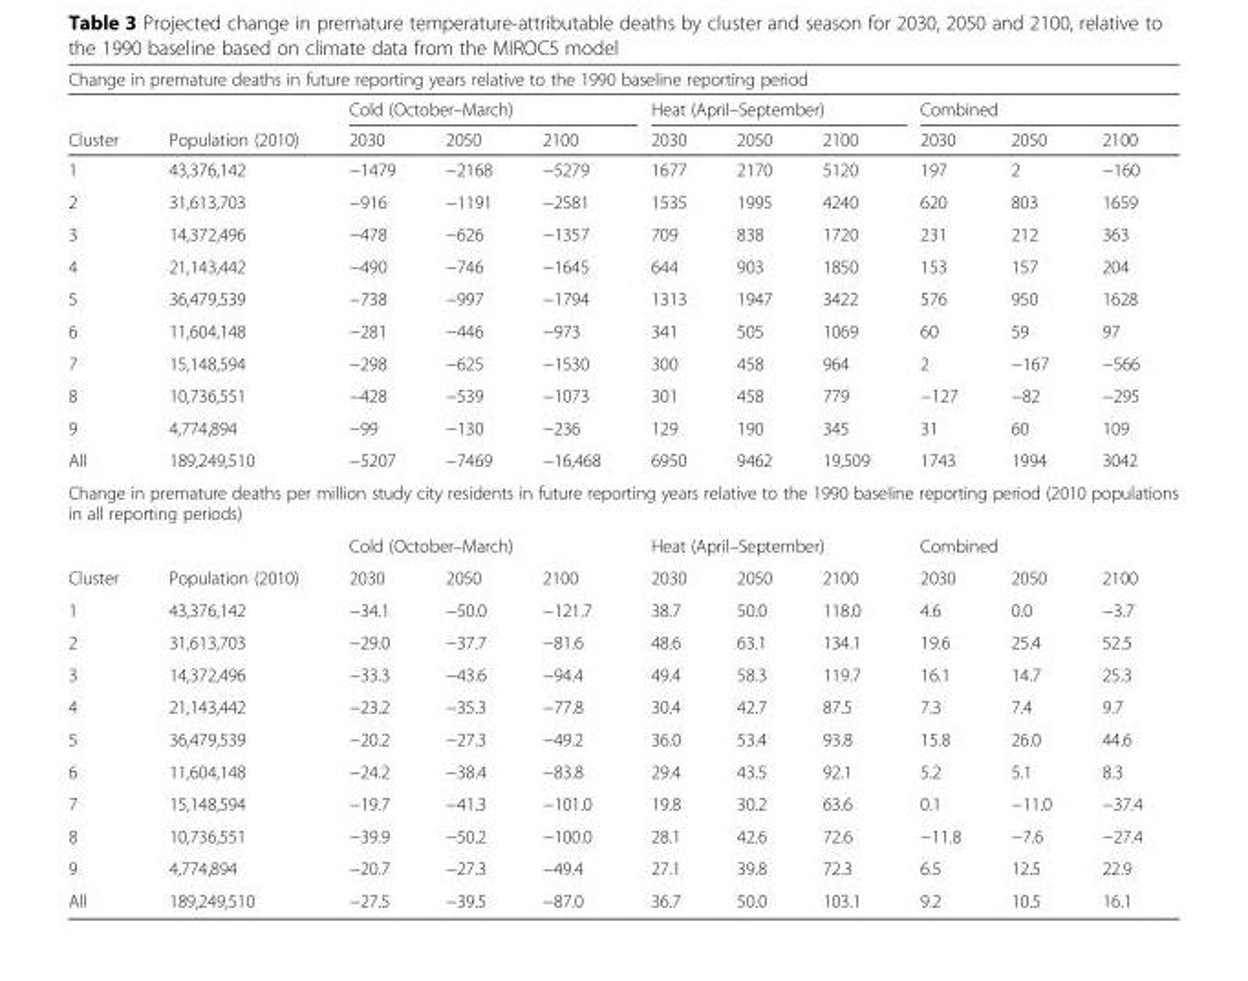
<table><thead><tr><td colspan="11">Change in premature deaths in future reporting years relative to the 1990 baseline reporting period</td></tr><tr><td rowspan="2">Cluster</td><td rowspan="2">Population (2010)</td><td colspan="3">Cold (October–March)</td><td colspan="3">Heat (April–September)</td><td colspan="3">Combined</td></tr><tr><td>2030</td><td>2050</td><td>2100</td><td>2030</td><td>2050</td><td>2100</td><td>2030</td><td>2050</td><td>2100</td></tr></thead><tbody><tr><td>1</td><td>43,376,142</td><td>−1479</td><td>−2168</td><td>−5279</td><td>1677</td><td>2170</td><td>5120</td><td>197</td><td>2</td><td>−160</td></tr><tr><td>2</td><td>31,613,703</td><td>−916</td><td>−1191</td><td>−2581</td><td>1535</td><td>1995</td><td>4240</td><td>620</td><td>803</td><td>1659</td></tr><tr><td>3</td><td>14,372,496</td><td>−478</td><td>−626</td><td>−1357</td><td>709</td><td>838</td><td>1720</td><td>231</td><td>212</td><td>363</td></tr><tr><td>4</td><td>21,143,442</td><td>−490</td><td>−746</td><td>−1645</td><td>644</td><td>903</td><td>1850</td><td>153</td><td>157</td><td>204</td></tr><tr><td>5</td><td>36,479,539</td><td>−738</td><td>−997</td><td>−1794</td><td>1313</td><td>1947</td><td>3422</td><td>576</td><td>950</td><td>1628</td></tr><tr><td>6</td><td>11,604,148</td><td>−281</td><td>−446</td><td>−973</td><td>341</td><td>505</td><td>1069</td><td>60</td><td>59</td><td>97</td></tr><tr><td>7</td><td>15,148,594</td><td>−298</td><td>−625</td><td>−1530</td><td>300</td><td>458</td><td>964</td><td>2</td><td>−167</td><td>−566</td></tr><tr><td>8</td><td>10,736,551</td><td>−428</td><td>−539</td><td>−1073</td><td>301</td><td>458</td><td>779</td><td>−127</td><td>−82</td><td>−295</td></tr><tr><td>9</td><td>4,774,894</td><td>−99</td><td>−130</td><td>−236</td><td>129</td><td>190</td><td>345</td><td>31</td><td>60</td><td>109</td></tr><tr><td>All</td><td>189,249,510</td><td>−5207</td><td>−7469</td><td>−16,468</td><td>6950</td><td>9462</td><td>19,509</td><td>1743</td><td>1994</td><td>3042</td></tr><tr><td colspan="11">Change in premature deaths per million study city residents in future reporting years relative to the 1990 baseline reporting period (2010 populations in all reporting periods)</td></tr><tr><td></td><td></td><td colspan="3">Cold (October–March)</td><td colspan="3">Heat (April–September)</td><td colspan="3">Combined</td></tr><tr><td>Cluster</td><td>Population (2010)</td><td>2030</td><td>2050</td><td>2100</td><td>2030</td><td>2050</td><td>2100</td><td>2030</td><td>2050</td><td>2100</td></tr><tr><td>1</td><td>43,376,142</td><td>−34.1</td><td>−50.0</td><td>−121.7</td><td>38.7</td><td>50.0</td><td>118.0</td><td>4.6</td><td>0.0</td><td>−3.7</td></tr><tr><td>2</td><td>31,613,703</td><td>−29.0</td><td>−37.7</td><td>−81.6</td><td>48.6</td><td>63.1</td><td>134.1</td><td>19.6</td><td>25.4</td><td>52.5</td></tr><tr><td>3</td><td>14,372,496</td><td>−33.3</td><td>−43.6</td><td>−94.4</td><td>49.4</td><td>58.3</td><td>119.7</td><td>16.1</td><td>14.7</td><td>25.3</td></tr><tr><td>4</td><td>21,143,442</td><td>−23.2</td><td>−35.3</td><td>−77.8</td><td>30.4</td><td>42.7</td><td>87.5</td><td>7.3</td><td>7.4</td><td>9.7</td></tr><tr><td>5</td><td>36,479,539</td><td>−20.2</td><td>−27.3</td><td>−49.2</td><td>36.0</td><td>53.4</td><td>93.8</td><td>15.8</td><td>26.0</td><td>44.6</td></tr><tr><td>6</td><td>11,604,148</td><td>−24.2</td><td>−38.4</td><td>−83.8</td><td>29.4</td><td>43.5</td><td>92.1</td><td>5.2</td><td>5.1</td><td>8.3</td></tr><tr><td>7</td><td>15,148,594</td><td>−19.7</td><td>−41.3</td><td>−101.0</td><td>19.8</td><td>30.2</td><td>63.6</td><td>0.1</td><td>−11.0</td><td>−37.4</td></tr><tr><td>8</td><td>10,736,551</td><td>−39.9</td><td>−50.2</td><td>−100.0</td><td>28.1</td><td>42.6</td><td>72.6</td><td>−11.8</td><td>−7.6</td><td>−27.4</td></tr><tr><td>9</td><td>4,774,894</td><td>−20.7</td><td>−27.3</td><td>−49.4</td><td>27.1</td><td>39.8</td><td>72.3</td><td>6.5</td><td>12.5</td><td>22.9</td></tr><tr><td>All</td><td>189,249,510</td><td>−27.5</td><td>−39.5</td><td>−87.0</td><td>36.7</td><td>50.0</td><td>103.1</td><td>9.2</td><td>10.5</td><td>16.1</td></tr></tbody></table>